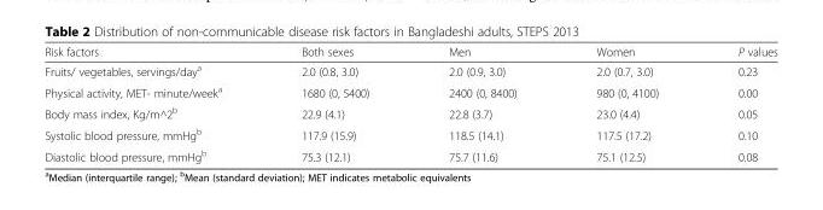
<table><thead><tr><td>Risk factors</td><td>Both sexes</td><td>Men</td><td>Women</td><td>P values</td></tr></thead><tbody><tr><td>Fruits/ vegetables, servings/day<sup>a</sup></td><td>2.0 (0.8, 3.0)</td><td>2.0 (0.9, 3.0)</td><td>2.0 (0.7, 3.0)</td><td>0.23</td></tr><tr><td>Physical activity, MET- minute/week<sup>a</sup></td><td>1680 (0, 5400)</td><td>2400 (0, 8400)</td><td>980 (0, 4100)</td><td>0.00</td></tr><tr><td>Body mass index, Kg/m^2<sup>b</sup></td><td>22.9 (4.1)</td><td>22.8 (3.7)</td><td>23.0 (4.4)</td><td>0.05</td></tr><tr><td>Systolic blood pressure, mmHg<sup>b</sup></td><td>117.9 (15.9)</td><td>118.5 (14.1)</td><td>117.5 (17.2)</td><td>0.10</td></tr><tr><td>Diastolic blood pressure, mmHg<sup>b</sup></td><td>75.3 (12.1)</td><td>75.7 (11.6)</td><td>75.1 (12.5)</td><td>0.08</td></tr></tbody></table>